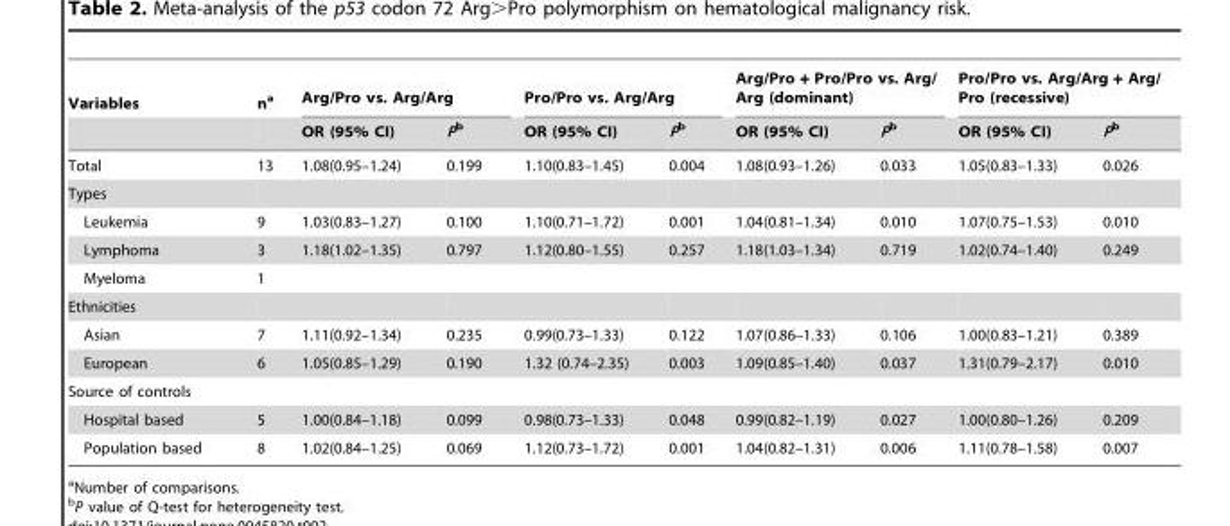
<table><thead><tr><td rowspan="2">Variables</td><td rowspan="2">n<sup>a</sup></td><td colspan="2">Arg/Pro vs. Arg/Arg</td><td colspan="2">Pro/Pro vs. Arg/Arg</td><td colspan="2">Arg/Pro + Pro/Pro vs. Arg/ Arg (dominant)</td><td colspan="2">Pro/Pro vs. Arg/Arg + Arg/ Pro (recessive)</td></tr><tr><td>OR (95% CI)</td><td>Pb</td><td>OR (95% CI)</td><td>Pb</td><td>OR (95% CI)</td><td>Pb</td><td>OR (95% CI)</td><td>Pb</td></tr></thead><tbody><tr><td>Total</td><td>13</td><td>1.08(0.95–1.24)</td><td>0.199</td><td>1.10(0.83–1.45)</td><td>0.004</td><td>1.08(0.93–1.26)</td><td>0.033</td><td>1.05(0.83–1.33)</td><td>0.026</td></tr><tr><td colspan="10">Types</td></tr><tr><td>Leukemia</td><td>9</td><td>1.03(0.83–1.27)</td><td>0.100</td><td>1.10(0.71–1.72)</td><td>0.001</td><td>1.04(0.81–1.34)</td><td>0.010</td><td>1.07(0.75–1.53)</td><td>0.010</td></tr><tr><td>Lymphoma</td><td>3</td><td>1.18(1.02–1.35)</td><td>0.797</td><td>1.12(0.80–1.55)</td><td>0.257</td><td>1.18(1.03–1.34)</td><td>0.719</td><td>1.02(0.74–1.40)</td><td>0.249</td></tr><tr><td>Myeloma</td><td>1</td><td></td><td></td><td></td><td></td><td></td><td></td><td></td><td></td></tr><tr><td colspan="10">Ethnicities</td></tr><tr><td>Asian</td><td>7</td><td>1.11(0.92–1.34)</td><td>0.235</td><td>0.99(0.73–1.33)</td><td>0.122</td><td>1.07(0.86–1.33)</td><td>0.106</td><td>1.00(0.83–1.21)</td><td>0.389</td></tr><tr><td>European</td><td>6</td><td>1.05(0.85–1.29)</td><td>0.190</td><td>1.32 (0.74–2.35)</td><td>0.003</td><td>1.09(0.85–1.40)</td><td>0.037</td><td>1.31(0.79–2.17)</td><td>0.010</td></tr><tr><td colspan="10">Source of controls</td></tr><tr><td>Hospital based</td><td>5</td><td>1.00(0.84–1.18)</td><td>0.099</td><td>0.98(0.73–1.33)</td><td>0.048</td><td>0.99(0.82–1.19)</td><td>0.027</td><td>1.00(0.80–1.26)</td><td>0.209</td></tr><tr><td>Population based</td><td>8</td><td>1.02(0.84–1.25)</td><td>0.069</td><td>1.12(0.73–1.72)</td><td>0.001</td><td>1.04(0.82–1.31)</td><td>0.006</td><td>1.11(0.78–1.58)</td><td>0.007</td></tr></tbody></table>